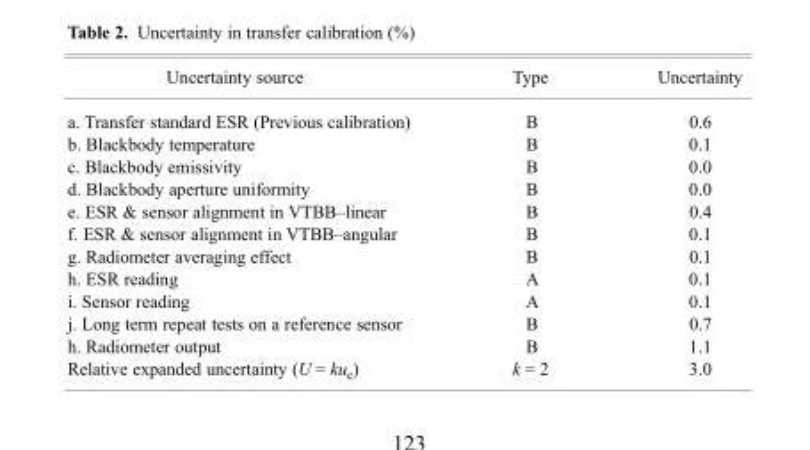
<table><thead><tr><td>Uncertainty source</td><td>Type</td><td>Uncertainty</td></tr></thead><tbody><tr><td>a. Transfer standard ESR (Previous calibration)</td><td>B</td><td>0.6</td></tr><tr><td>b. Blackbody temperature</td><td>B</td><td>0.1</td></tr><tr><td>c. Blackbody emissivity</td><td>B</td><td>0.0</td></tr><tr><td>d. Blackbody aperture uniformity</td><td>B</td><td>0.0</td></tr><tr><td>e. ESR &amp; sensor alignment in VTBB–linear</td><td>B</td><td>0.4</td></tr><tr><td>f. ESR &amp; sensor alignment in VTBB–angular</td><td>B</td><td>0.1</td></tr><tr><td>g. Radiometer averaging effect</td><td>B</td><td>0.1</td></tr><tr><td>h. ESR reading</td><td>A</td><td>0.1</td></tr><tr><td>i. Sensor reading</td><td>A</td><td>0.1</td></tr><tr><td>j. Long term repeat tests on a reference sensor</td><td>B</td><td>0.7</td></tr><tr><td>h. Radiometer output</td><td>B</td><td>1.1</td></tr><tr><td>Relative expanded uncertainty (U = ku<sub>c</sub>)</td><td>k = 2</td><td>3.0</td></tr></tbody></table>